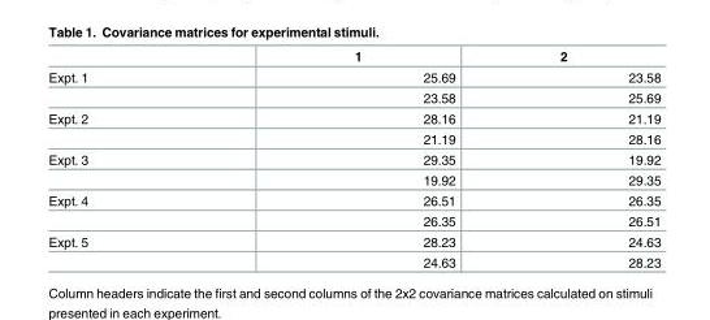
<table><thead><tr><td></td><td>1</td><td>2</td></tr></thead><tbody><tr><td rowspan="2">Expt. 1</td><td>25.69</td><td>23.58</td></tr><tr><td>23.58</td><td>25.69</td></tr><tr><td rowspan="2">Expt. 2</td><td>28.16</td><td>21.19</td></tr><tr><td>21.19</td><td>28.16</td></tr><tr><td rowspan="2">Expt. 3</td><td>29.35</td><td>19.92</td></tr><tr><td>19.92</td><td>29.35</td></tr><tr><td rowspan="2">Expt. 4</td><td>26.51</td><td>26.35</td></tr><tr><td>26.35</td><td>26.51</td></tr><tr><td rowspan="2">Expt. 5</td><td>28.23</td><td>24.63</td></tr><tr><td>24.63</td><td>28.23</td></tr></tbody></table>